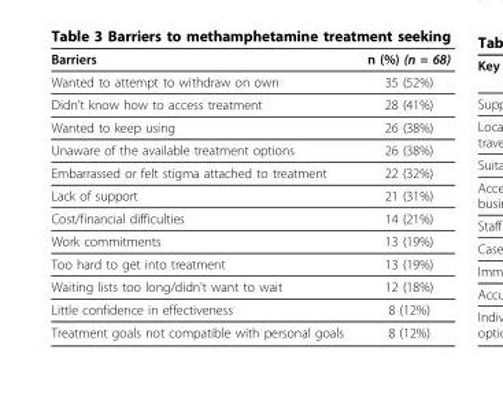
<table><thead><tr><td>Barriers</td><td>n (%) (n = 68)</td></tr></thead><tbody><tr><td>Wanted to attempt to withdraw on own</td><td>35 (52%)</td></tr><tr><td>Didn’t know how to access treatment</td><td>28 (41%)</td></tr><tr><td>Wanted to keep using</td><td>26 (38%)</td></tr><tr><td>Unaware of the available treatment options</td><td>26 (38%)</td></tr><tr><td>Embarrassed or felt stigma attached to treatment</td><td>22 (32%)</td></tr><tr><td>Lack of support</td><td>21 (31%)</td></tr><tr><td>Cost/financial difficulties</td><td>14 (21%)</td></tr><tr><td>Work commitments</td><td>13 (19%)</td></tr><tr><td>Too hard to get into treatment</td><td>13 (19%)</td></tr><tr><td>Waiting lists too long/didn’t want to wait</td><td>12 (18%)</td></tr><tr><td>Little confidence in effectiveness</td><td>8 (12%)</td></tr><tr><td>Treatment goals not compatible with personal goals</td><td>8 (12%)</td></tr></tbody></table>